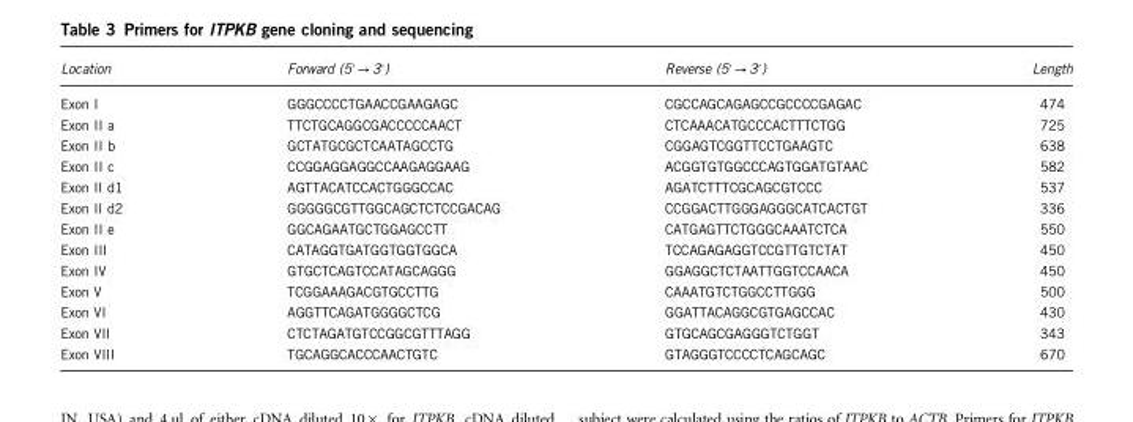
<table><thead><tr><td>Location</td><td>Forward (5′ → 3′)</td><td>Reverse (5′ → 3′)</td><td>Length</td></tr></thead><tbody><tr><td>Exon I</td><td>GGGCCCCTGAACCGAAGAGC</td><td>CGCCAGCAGAGCCGCCCCGAGAC</td><td>474</td></tr><tr><td>Exon II a</td><td>TTCTGCAGGCGACCCCCAACT</td><td>CTCAAACATGCCCACTTTCTGG</td><td>725</td></tr><tr><td>Exon II b</td><td>GCTATGCGCTCAATAGCCTG</td><td>CGGAGTCGGTTCCTGAAGTC</td><td>638</td></tr><tr><td>Exon II c</td><td>CCGGAGGAGGCCAAGAGGAAG</td><td>ACGGTGTGGCCCAGTGGATGTAAC</td><td>582</td></tr><tr><td>Exon II d1</td><td>AGTTACATCCACTGGGCCAC</td><td>AGATCTTTCGCAGCGTCCC</td><td>537</td></tr><tr><td>Exon II d2</td><td>GGGGGCGTTGGCAGCTCTCCGACAG</td><td>CCGGACTTGGGAGGGCATCACTGT</td><td>336</td></tr><tr><td>Exon II e</td><td>GGCAGAATGCTGGAGCCTT</td><td>CATGAGTTCTGGGCAAATCTCA</td><td>550</td></tr><tr><td>Exon III</td><td>CATAGGTGATGGTGGTGGCA</td><td>TCCAGAGAGGTCCGTTGTCTAT</td><td>450</td></tr><tr><td>Exon IV</td><td>GTGCTCAGTCCATAGCAGGG</td><td>GGAGGCTCTAATTGGTCCAACA</td><td>450</td></tr><tr><td>Exon V</td><td>TCGGAAAGACGTGCCTTG</td><td>CAAATGTCTGGCCTTGGG</td><td>500</td></tr><tr><td>Exon VI</td><td>AGGTTCAGATGGGGCTCG</td><td>GGATTACAGGCGTGAGCCAC</td><td>430</td></tr><tr><td>Exon VII</td><td>CTCTAGATGTCCGGCGTTTAGG</td><td>GTGCAGCGAGGGTCTGGT</td><td>343</td></tr><tr><td>Exon VIII</td><td>TGCAGGCACCCAACTGTC</td><td>GTAGGGTCCCCTCAGCAGC</td><td>670</td></tr></tbody></table>